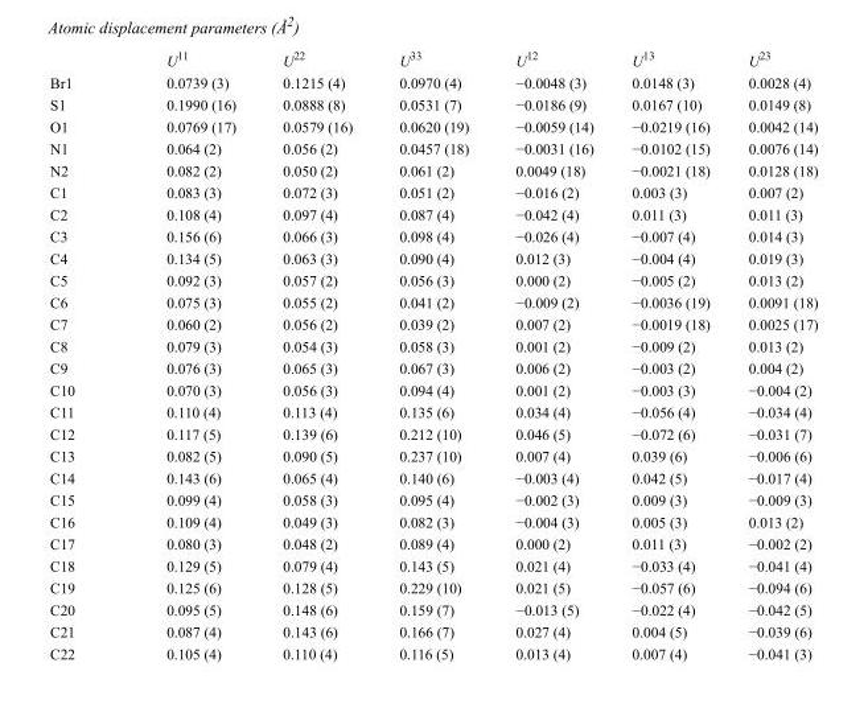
<table><thead><tr><td></td><td>U<sup>11</sup></td><td>U<sup>22</sup></td><td>U<sup>33</sup></td><td>U<sup>12</sup></td><td>U<sup>13</sup></td><td>U<sup>23</sup></td></tr></thead><tbody><tr><td>Br1</td><td>0.0739 (3)</td><td>0.1215 (4)</td><td>0.0970 (4)</td><td>−0.0048 (3)</td><td>0.0148 (3)</td><td>0.0028 (4)</td></tr><tr><td>S1</td><td>0.1990 (16)</td><td>0.0888 (8)</td><td>0.0531 (7)</td><td>−0.0186 (9)</td><td>0.0167 (10)</td><td>0.0149 (8)</td></tr><tr><td>O1</td><td>0.0769 (17)</td><td>0.0579 (16)</td><td>0.0620 (19)</td><td>−0.0059 (14)</td><td>−0.0219 (16)</td><td>0.0042 (14)</td></tr><tr><td>N1</td><td>0.064 (2)</td><td>0.056 (2)</td><td>0.0457 (18)</td><td>−0.0031 (16)</td><td>−0.0102 (15)</td><td>0.0076 (14)</td></tr><tr><td>N2</td><td>0.082 (2)</td><td>0.050 (2)</td><td>0.061 (2)</td><td>0.0049 (18)</td><td>−0.0021 (18)</td><td>0.0128 (18)</td></tr><tr><td>C1</td><td>0.083 (3)</td><td>0.072 (3)</td><td>0.051 (2)</td><td>−0.016 (2)</td><td>0.003 (3)</td><td>0.007 (2)</td></tr><tr><td>C2</td><td>0.108 (4)</td><td>0.097 (4)</td><td>0.087 (4)</td><td>−0.042 (4)</td><td>0.011 (3)</td><td>0.011 (3)</td></tr><tr><td>C3</td><td>0.156 (6)</td><td>0.066 (3)</td><td>0.098 (4)</td><td>−0.026 (4)</td><td>−0.007 (4)</td><td>0.014 (3)</td></tr><tr><td>C4</td><td>0.134 (5)</td><td>0.063 (3)</td><td>0.090 (4)</td><td>0.012 (3)</td><td>−0.004 (4)</td><td>0.019 (3)</td></tr><tr><td>C5</td><td>0.092 (3)</td><td>0.057 (2)</td><td>0.056 (3)</td><td>0.000 (2)</td><td>−0.005 (2)</td><td>0.013 (2)</td></tr><tr><td>C6</td><td>0.075 (3)</td><td>0.055 (2)</td><td>0.041 (2)</td><td>−0.009 (2)</td><td>−0.0036 (19)</td><td>0.0091 (18)</td></tr><tr><td>C7</td><td>0.060 (2)</td><td>0.056 (2)</td><td>0.039 (2)</td><td>0.007 (2)</td><td>−0.0019 (18)</td><td>0.0025 (17)</td></tr><tr><td>C8</td><td>0.079 (3)</td><td>0.054 (3)</td><td>0.058 (3)</td><td>0.001 (2)</td><td>−0.009 (2)</td><td>0.013 (2)</td></tr><tr><td>C9</td><td>0.076 (3)</td><td>0.065 (3)</td><td>0.067 (3)</td><td>0.006 (2)</td><td>−0.003 (2)</td><td>0.004 (2)</td></tr><tr><td>C10</td><td>0.070 (3)</td><td>0.056 (3)</td><td>0.094 (4)</td><td>0.001 (2)</td><td>−0.003 (3)</td><td>−0.004 (2)</td></tr><tr><td>C11</td><td>0.110 (4)</td><td>0.113 (4)</td><td>0.135 (6)</td><td>0.034 (4)</td><td>−0.056 (4)</td><td>−0.034 (4)</td></tr><tr><td>C12</td><td>0.117 (5)</td><td>0.139 (6)</td><td>0.212 (10)</td><td>0.046 (5)</td><td>−0.072 (6)</td><td>−0.031 (7)</td></tr><tr><td>C13</td><td>0.082 (5)</td><td>0.090 (5)</td><td>0.237 (10)</td><td>0.007 (4)</td><td>0.039 (6)</td><td>−0.006 (6)</td></tr><tr><td>C14</td><td>0.143 (6)</td><td>0.065 (4)</td><td>0.140 (6)</td><td>−0.003 (4)</td><td>0.042 (5)</td><td>−0.017 (4)</td></tr><tr><td>C15</td><td>0.099 (4)</td><td>0.058 (3)</td><td>0.095 (4)</td><td>−0.002 (3)</td><td>0.009 (3)</td><td>−0.009 (3)</td></tr><tr><td>C16</td><td>0.109 (4)</td><td>0.049 (3)</td><td>0.082 (3)</td><td>−0.004 (3)</td><td>0.005 (3)</td><td>0.013 (2)</td></tr><tr><td>C17</td><td>0.080 (3)</td><td>0.048 (2)</td><td>0.089 (4)</td><td>0.000 (2)</td><td>0.011 (3)</td><td>−0.002 (2)</td></tr><tr><td>C18</td><td>0.129 (5)</td><td>0.079 (4)</td><td>0.143 (5)</td><td>0.021 (4)</td><td>−0.033 (4)</td><td>−0.041 (4)</td></tr><tr><td>C19</td><td>0.125 (6)</td><td>0.128 (5)</td><td>0.229 (10)</td><td>0.021 (5)</td><td>−0.057 (6)</td><td>−0.094 (6)</td></tr><tr><td>C20</td><td>0.095 (5)</td><td>0.148 (6)</td><td>0.159 (7)</td><td>−0.013 (5)</td><td>−0.022 (4)</td><td>−0.042 (5)</td></tr><tr><td>C21</td><td>0.087 (4)</td><td>0.143 (6)</td><td>0.166 (7)</td><td>0.027 (4)</td><td>0.004 (5)</td><td>−0.039 (6)</td></tr><tr><td>C22</td><td>0.105 (4)</td><td>0.110 (4)</td><td>0.116 (5)</td><td>0.013 (4)</td><td>0.007 (4)</td><td>−0.041 (3)</td></tr></tbody></table>